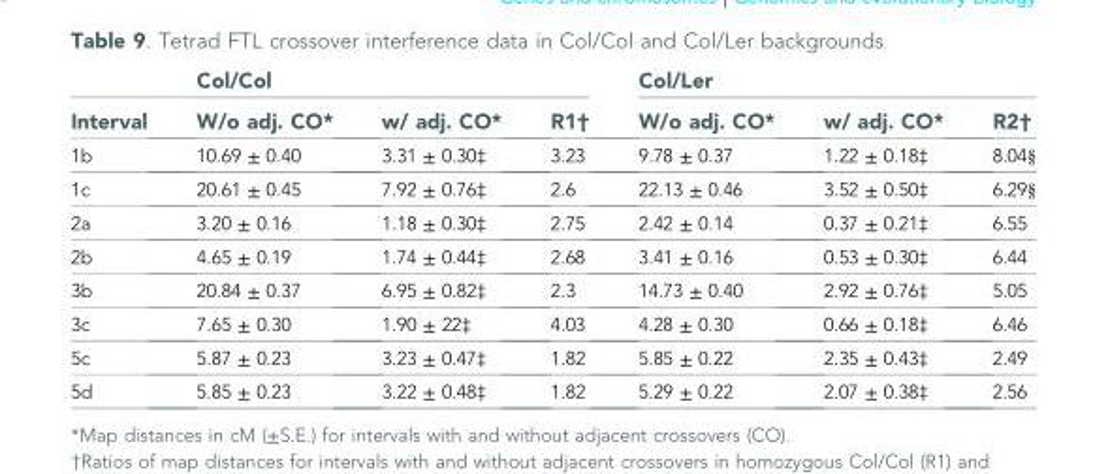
<table><thead><tr><td rowspan="2">Interval</td><td colspan="3">Col/Col</td><td colspan="3">Col/Ler</td></tr><tr><td>W/o adj. CO*</td><td>w/ adj. CO*</td><td>R1†</td><td>W/o adj. CO*</td><td>w/ adj. CO*</td><td>R2†</td></tr></thead><tbody><tr><td>1b</td><td>10.69 ± 0.40</td><td>3.31 ± 0.30‡</td><td>3.23</td><td>9.78 ± 0.37</td><td>1.22 ± 0.18‡</td><td>8.04§</td></tr><tr><td>1c</td><td>20.61 ± 0.45</td><td>7.92 ± 0.76‡</td><td>2.6</td><td>22.13 ± 0.46</td><td>3.52 ± 0.50‡</td><td>6.29§</td></tr><tr><td>2a</td><td>3.20 ± 0.16</td><td>1.18 ± 0.30‡</td><td>2.75</td><td>2.42 ± 0.14</td><td>0.37 ± 0.21‡</td><td>6.55</td></tr><tr><td>2b</td><td>4.65 ± 0.19</td><td>1.74 ± 0.44‡</td><td>2.68</td><td>3.41 ± 0.16</td><td>0.53 ± 0.30‡</td><td>6.44</td></tr><tr><td>3b</td><td>20.84 ± 0.37</td><td>6.95 ± 0.82‡</td><td>2.3</td><td>14.73 ± 0.40</td><td>2.92 ± 0.76‡</td><td>5.05</td></tr><tr><td>3c</td><td>7.65 ± 0.30</td><td>1.90 ± 22‡</td><td>4.03</td><td>4.28 ± 0.30</td><td>0.66 ± 0.18‡</td><td>6.46</td></tr><tr><td>5c</td><td>5.87 ± 0.23</td><td>3.23 ± 0.47‡</td><td>1.82</td><td>5.85 ± 0.22</td><td>2.35 ± 0.43‡</td><td>2.49</td></tr><tr><td>5d</td><td>5.85 ± 0.23</td><td>3.22 ± 0.48‡</td><td>1.82</td><td>5.29 ± 0.22</td><td>2.07 ± 0.38‡</td><td>2.56</td></tr></tbody></table>